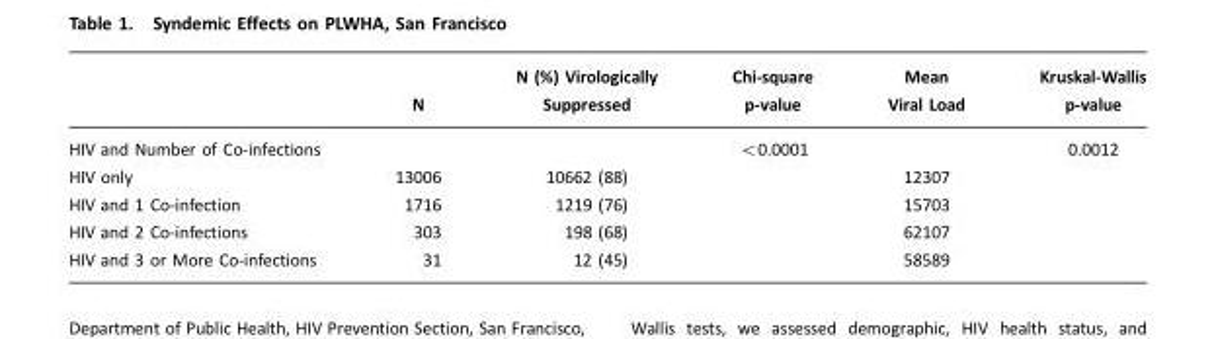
<table><thead><tr><td></td><td>N</td><td>N (%) Virologically Suppressed</td><td>Chi-square p-value</td><td>Mean Viral Load</td><td>Kruskal-Wallis p-value</td></tr></thead><tbody><tr><td>HIV and Number of Co-infections</td><td></td><td></td><td>&lt;0.0001</td><td></td><td>0.0012</td></tr><tr><td>HIV only</td><td>13006</td><td>10662 (88)</td><td></td><td>12307</td><td></td></tr><tr><td>HIV and 1 Co-infection</td><td>1716</td><td>1219 (76)</td><td></td><td>15703</td><td></td></tr><tr><td>HIV and 2 Co-infections</td><td>303</td><td>198 (68)</td><td></td><td>62107</td><td></td></tr><tr><td>HIV and 3 or More Co-infections</td><td>31</td><td>12 (45)</td><td></td><td>58589</td><td></td></tr></tbody></table>